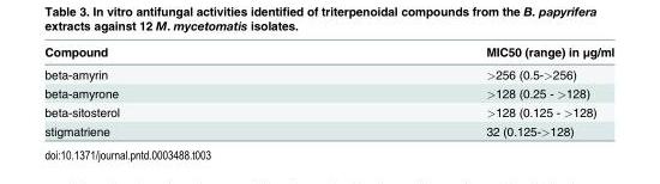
<table><thead><tr><td>Compound</td><td>MIC50 (range) in μg/ml</td></tr></thead><tbody><tr><td>beta-amyrin</td><td>&gt;256 (0.5-&gt;256)</td></tr><tr><td>beta-amyrone</td><td>&gt;128 (0.25 - &gt;128)</td></tr><tr><td>beta-sitosterol</td><td>&gt;128 (0.125 - &gt;128)</td></tr><tr><td>stigmatriene</td><td>32 (0.125-&gt;128)</td></tr></tbody></table>